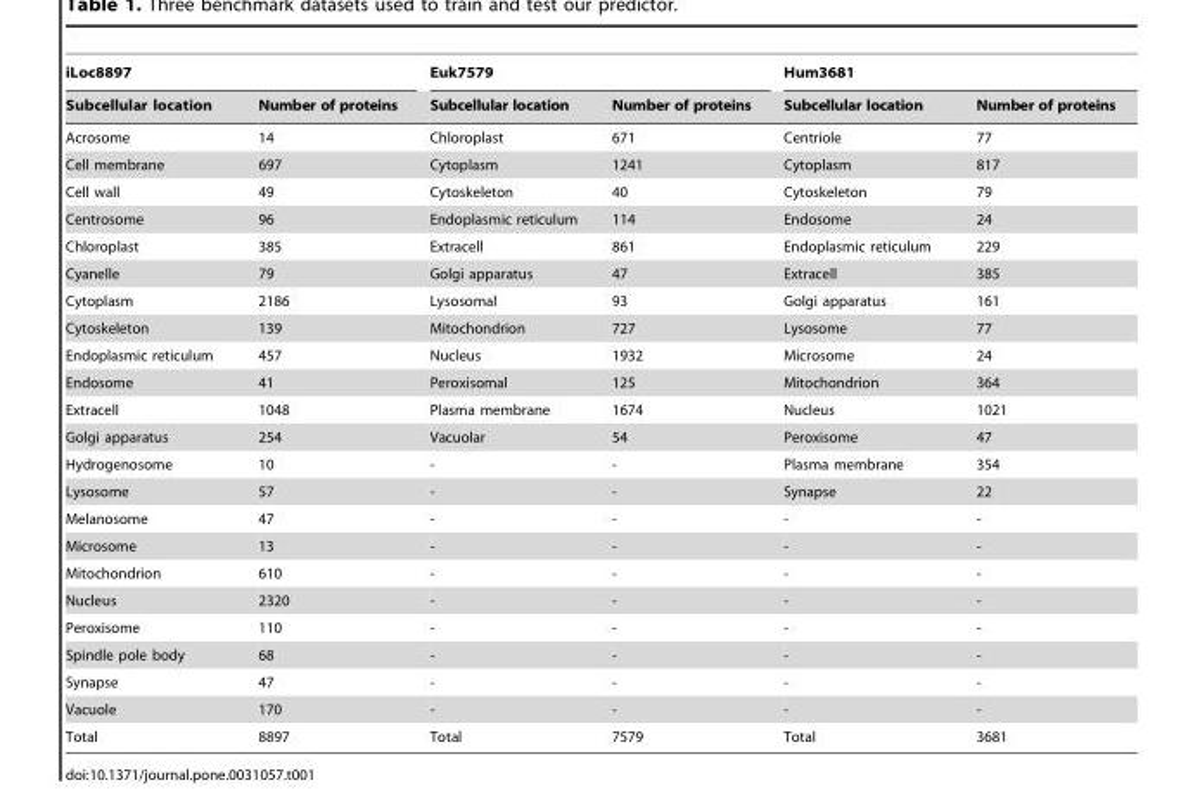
<table><thead><tr><td colspan="2">iLoc8897</td><td colspan="2">Euk7579</td><td colspan="2">Hum3681</td></tr><tr><td>Subcellular location</td><td>Number of proteins</td><td>Subcellular location</td><td>Number of proteins</td><td>Subcellular location</td><td>Number of proteins</td></tr></thead><tbody><tr><td>Acrosome</td><td>14</td><td>Chloroplast</td><td>671</td><td>Centriole</td><td>77</td></tr><tr><td>Cell membrane</td><td>697</td><td>Cytoplasm</td><td>1241</td><td>Cytoplasm</td><td>817</td></tr><tr><td>Cell wall</td><td>49</td><td>Cytoskeleton</td><td>40</td><td>Cytoskeleton</td><td>79</td></tr><tr><td>Centrosome</td><td>96</td><td>Endoplasmic reticulum</td><td>114</td><td>Endosome</td><td>24</td></tr><tr><td>Chloroplast</td><td>385</td><td>Extracell</td><td>861</td><td>Endoplasmic reticulum</td><td>229</td></tr><tr><td>Cyanelle</td><td>79</td><td>Golgi apparatus</td><td>47</td><td>Extracell</td><td>385</td></tr><tr><td>Cytoplasm</td><td>2186</td><td>Lysosomal</td><td>93</td><td>Golgi apparatus</td><td>161</td></tr><tr><td>Cytoskeleton</td><td>139</td><td>Mitochondrion</td><td>727</td><td>Lysosome</td><td>77</td></tr><tr><td>Endoplasmic reticulum</td><td>457</td><td>Nucleus</td><td>1932</td><td>Microsome</td><td>24</td></tr><tr><td>Endosome</td><td>41</td><td>Peroxisomal</td><td>125</td><td>Mitochondrion</td><td>364</td></tr><tr><td>Extracell</td><td>1048</td><td>Plasma membrane</td><td>1674</td><td>Nucleus</td><td>1021</td></tr><tr><td>Golgi apparatus</td><td>254</td><td>Vacuolar</td><td>54</td><td>Peroxisome</td><td>47</td></tr><tr><td>Hydrogenosome</td><td>10</td><td>-</td><td>-</td><td>Plasma membrane</td><td>354</td></tr><tr><td>Lysosome</td><td>57</td><td>-</td><td>-</td><td>Synapse</td><td>22</td></tr><tr><td>Melanosome</td><td>47</td><td>-</td><td>-</td><td>-</td><td>-</td></tr><tr><td>Microsome</td><td>13</td><td>-</td><td>-</td><td>-</td><td>-</td></tr><tr><td>Mitochondrion</td><td>610</td><td>-</td><td>-</td><td>-</td><td>-</td></tr><tr><td>Nucleus</td><td>2320</td><td>-</td><td>-</td><td>-</td><td>-</td></tr><tr><td>Peroxisome</td><td>110</td><td>-</td><td>-</td><td>-</td><td>-</td></tr><tr><td>Spindle pole body</td><td>68</td><td>-</td><td>-</td><td>-</td><td>-</td></tr><tr><td>Synapse</td><td>47</td><td>-</td><td>-</td><td>-</td><td>-</td></tr><tr><td>Vacuole</td><td>170</td><td>-</td><td>-</td><td>-</td><td>-</td></tr><tr><td>Total</td><td>8897</td><td>Total</td><td>7579</td><td>Total</td><td>3681</td></tr></tbody></table>